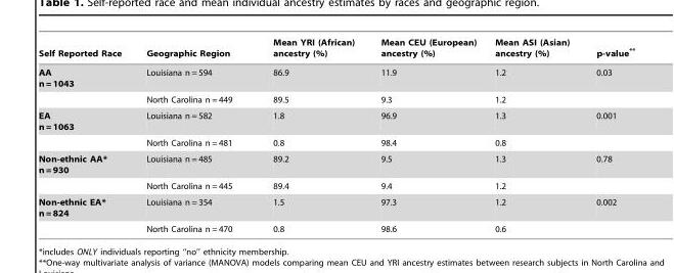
<table><thead><tr><td>Self Reported Race</td><td>Geographic Region</td><td>Mean YRI (African) ancestry (%)</td><td>Mean CEU (European) ancestry (%)</td><td>Mean ASI (Asian) ancestry (%)</td><td>p-value**</td></tr></thead><tbody><tr><td rowspan="2">AA n = 1043</td><td>Louisiana n = 594</td><td>86.9</td><td>11.9</td><td>1.2</td><td>0.03</td></tr><tr><td>North Carolina n = 449</td><td>89.5</td><td>9.3</td><td>1.2</td><td></td></tr><tr><td rowspan="2">EA n = 1063</td><td>Louisiana n = 582</td><td>1.8</td><td>96.9</td><td>1.3</td><td>0.001</td></tr><tr><td>North Carolina n = 481</td><td>0.8</td><td>98.4</td><td>0.8</td><td></td></tr><tr><td rowspan="2">Non-ethnic AA* n = 930</td><td>Louisiana n = 485</td><td>89.2</td><td>9.5</td><td>1.3</td><td>0.78</td></tr><tr><td>North Carolina n = 445</td><td>89.4</td><td>9.4</td><td>1.2</td><td></td></tr><tr><td rowspan="2">Non-ethnic EA* n = 824</td><td>Louisiana n = 354</td><td>1.5</td><td>97.3</td><td>1.2</td><td>0.002</td></tr><tr><td>North Carolina n = 470</td><td>0.8</td><td>98.6</td><td>0.6</td><td></td></tr></tbody></table>